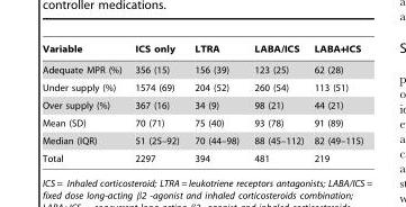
<table><thead><tr><td>Variable</td><td>ICS only</td><td>LTRA</td><td>LABA/ICS</td><td>LABA+ICS</td></tr></thead><tbody><tr><td>Adequate MPR (%)</td><td>356 (15)</td><td>156 (39)</td><td>123 (25)</td><td>62 (28)</td></tr><tr><td>Under supply (%)</td><td>1574 (69)</td><td>204 (52)</td><td>260 (54)</td><td>113 (51)</td></tr><tr><td>Over supply (%)</td><td>367 (16)</td><td>34 (9)</td><td>98 (21)</td><td>44 (21)</td></tr><tr><td>Mean (SD)</td><td>70 (71)</td><td>75 (40)</td><td>93 (78)</td><td>91 (89)</td></tr><tr><td>Median (IQR)</td><td>51 (25–92)</td><td>70 (44–98)</td><td>88 (45–112)</td><td>82 (49–115)</td></tr><tr><td>Total</td><td>2297</td><td>394</td><td>481</td><td>219</td></tr></tbody></table>